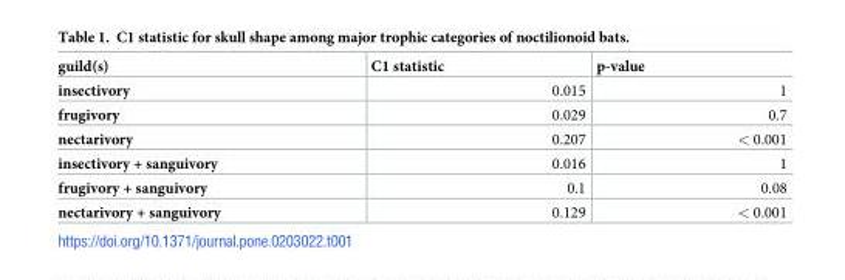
<table><thead><tr><td>guild(s)</td><td>C1 statistic</td><td>p-value</td></tr></thead><tbody><tr><td>insectivory</td><td>0.015</td><td>1</td></tr><tr><td>frugivory</td><td>0.029</td><td>0.7</td></tr><tr><td>nectarivory</td><td>0.207</td><td>&lt; 0.001</td></tr><tr><td>insectivory + sanguivory</td><td>0.016</td><td>1</td></tr><tr><td>frugivory + sanguivory</td><td>0.1</td><td>0.08</td></tr><tr><td>nectarivory + sanguivory</td><td>0.129</td><td>&lt; 0.001</td></tr></tbody></table>